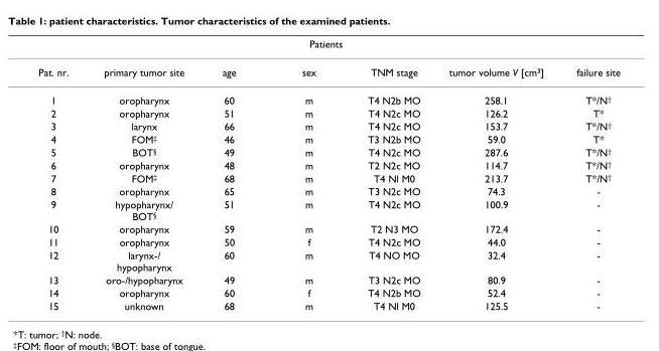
<table><thead><tr><td colspan="7">Patients</td></tr><tr><td>Pat. nr.</td><td>primary tumor site</td><td>age</td><td>sex</td><td>TNM stage</td><td>tumor volume V [cm<sup>3</sup>]</td><td>failure site</td></tr></thead><tbody><tr><td>1</td><td>oropharynx</td><td>60</td><td>m</td><td>T4 N2b MO</td><td>258.1</td><td>T*/N<sup>†</sup></td></tr><tr><td>2</td><td>oropharynx</td><td>51</td><td>m</td><td>T4 N2c MO</td><td>126.2</td><td>T*</td></tr><tr><td>3</td><td>larynx</td><td>66</td><td>m</td><td>T4 N2c MO</td><td>153.7</td><td>T*/N<sup>†</sup></td></tr><tr><td>4</td><td>FOM<sup>‡</sup></td><td>46</td><td>m</td><td>T3 N2b MO</td><td>59.0</td><td>T*</td></tr><tr><td>5</td><td>BOT<sup>§</sup></td><td>49</td><td>m</td><td>T4 N2c MO</td><td>287.6</td><td>T*/N<sup>†</sup></td></tr><tr><td>6</td><td>oropharynx</td><td>48</td><td>m</td><td>T2 N2c MO</td><td>114.7</td><td>T*/N<sup>†</sup></td></tr><tr><td>7</td><td>FOM<sup>‡</sup></td><td>68</td><td>m</td><td>T4 Nl M0</td><td>213.7</td><td>T*/N<sup>†</sup></td></tr><tr><td>8</td><td>oropharynx</td><td>65</td><td>m</td><td>T3 N2c MO</td><td>74.3</td><td>-</td></tr><tr><td>9</td><td>hypopharynx/ BOT<sup>§</sup></td><td>51</td><td>m</td><td>T4 N2c MO</td><td>100.9</td><td>-</td></tr><tr><td>10</td><td>oropharynx</td><td>59</td><td>m</td><td>T2 N3 MO</td><td>172.4</td><td>-</td></tr><tr><td>11</td><td>oropharynx</td><td>50</td><td>f</td><td>T4 N2c MO</td><td>44.0</td><td>-</td></tr><tr><td>12</td><td>larynx-/ hypopharynx</td><td>60</td><td>m</td><td>T4 NO MO</td><td>32.4</td><td>-</td></tr><tr><td>13</td><td>oro-/hypopharynx</td><td>49</td><td>m</td><td>T3 N2c MO</td><td>80.9</td><td>-</td></tr><tr><td>14</td><td>oropharynx</td><td>60</td><td>f</td><td>T4 N2b MO</td><td>52.4</td><td>-</td></tr><tr><td>15</td><td>unknown</td><td>68</td><td>m</td><td>T4 Nl M0</td><td>125.5</td><td>-</td></tr></tbody></table>